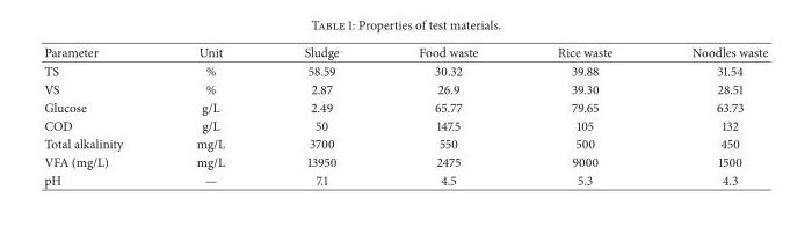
<table><thead><tr><td>Parameter</td><td>Unit</td><td>Sludge</td><td>Food waste</td><td>Rice waste</td><td>Noodles waste</td></tr></thead><tbody><tr><td>TS</td><td>%</td><td>58.59</td><td>30.32</td><td>39.88</td><td>31.54</td></tr><tr><td>VS</td><td>%</td><td>2.87</td><td>26.9</td><td>39.30</td><td>28.51</td></tr><tr><td>Glucose</td><td>g/L</td><td>2.49</td><td>65.77</td><td>79.65</td><td>63.73</td></tr><tr><td>COD</td><td>g/L</td><td>50</td><td>147.5</td><td>105</td><td>132</td></tr><tr><td>Total alkalinity</td><td>mg/L</td><td>3700</td><td>550</td><td>500</td><td>450</td></tr><tr><td>VFA (mg/L)</td><td>mg/L</td><td>13950</td><td>2475</td><td>9000</td><td>1500</td></tr><tr><td>pH</td><td>—</td><td>7.1</td><td>4.5</td><td>5.3</td><td>4.3</td></tr></tbody></table>